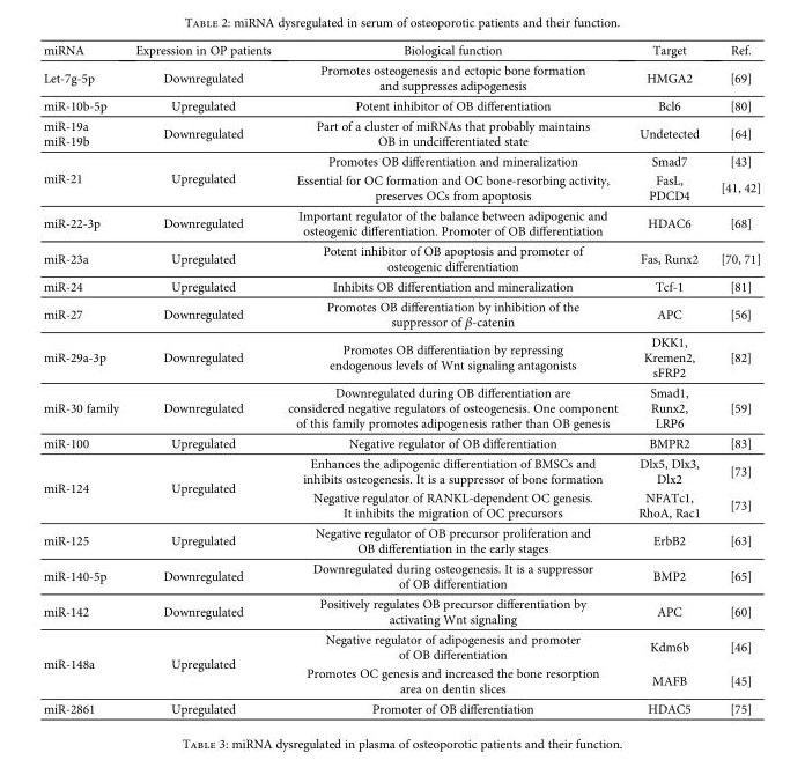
<table><thead><tr><td>miRNA</td><td>Expression in OP patients</td><td>Biological function</td><td>Target</td><td>Ref.</td></tr></thead><tbody><tr><td>Let-7g-5p</td><td>Downregulated</td><td>Promotes osteogenesis and ectopic bone formation and suppresses adipogenesis</td><td>HMGA2</td><td>[69]</td></tr><tr><td>miR-10b-5p</td><td>Upregulated</td><td>Potent inhibitor of OB differentiation</td><td>Bcl6</td><td>[80]</td></tr><tr><td>miR-19a miR-19b</td><td>Downregulated</td><td>Part of a cluster of miRNAs that probably maintains OB in undcifferentiated state</td><td>Undetected</td><td>[64]</td></tr><tr><td rowspan="2">miR-21</td><td rowspan="2">Upregulated</td><td>Promotes OB differentiation and mineralization</td><td>Smad7</td><td>[43]</td></tr><tr><td>Essential for OC formation and OC bone-resorbing activity, preserves OCs from apoptosis</td><td>FasL, PDCD4</td><td>[41, 42]</td></tr><tr><td>miR-22-3p</td><td>Downregulated</td><td>Important regulator of the balance between adipogenic and osteogenic differentiation. Promoter of OB differentiation</td><td>HDAC6</td><td>[68]</td></tr><tr><td>miR-23a</td><td>Upregulated</td><td>Potent inhibitor of OB apoptosis and promoter of osteogenic differentiation</td><td>Fas, Runx2</td><td>[70, 71]</td></tr><tr><td>miR-24</td><td>Upregulated</td><td>Inhibits OB differentiation and mineralization</td><td>Tcf-1</td><td>[81]</td></tr><tr><td>miR-27</td><td>Downregulated</td><td>Promotes OB differentiation by inhibition of the suppressor of β-catenin</td><td>APC</td><td>[56]</td></tr><tr><td>miR-29a-3p</td><td>Downregulated</td><td>Promotes OB differentiation by repressing endogenous levels of Wnt signaling antagonists</td><td>DKK1, Kremen2, sFRP2</td><td>[82]</td></tr><tr><td>miR-30 family</td><td>Downregulated</td><td>Downregulated during OB differentiation are considered negative regulators of osteogenesis. One component of this family promotes adipogenesis rather than OB genesis</td><td>Smad1, Runx2, LRP6</td><td>[59]</td></tr><tr><td>miR-100</td><td>Upregulated</td><td>Negative regulator of OB differentiation</td><td>BMPR2</td><td>[83]</td></tr><tr><td rowspan="2">miR-124</td><td rowspan="2">Upregulated</td><td>Enhances the adipogenic differentiation of BMSCs and inhibits osteogenesis. It is a suppressor of bone formation</td><td>Dlx5, Dlx3, Dlx2</td><td>[73]</td></tr><tr><td>Negative regulator of RANKL-dependent OC genesis. It inhibits the migration of OC precursors</td><td>NFATc1, RhoA, Rac1</td><td>[73]</td></tr><tr><td>miR-125</td><td>Upregulated</td><td>Negative regulator of OB precursor proliferation and OB differentiation in the early stages</td><td>ErbB2</td><td>[63]</td></tr><tr><td>miR-140-5p</td><td>Downregulated</td><td>Downregulated during osteogenesis. It is a suppressor of OB differentiation</td><td>BMP2</td><td>[65]</td></tr><tr><td>miR-142</td><td>Downregulated</td><td>Positively regulates OB precursor differentiation by activating Wnt signaling</td><td>APC</td><td>[60]</td></tr><tr><td rowspan="2">miR-148a</td><td rowspan="2">Upregulated</td><td>Negative regulator of adipogenesis and promoter of OB differentiation</td><td>Kdm6b</td><td>[46]</td></tr><tr><td>Promotes OC genesis and increased the bone resorption area on dentin slices</td><td>MAFB</td><td>[45]</td></tr><tr><td>miR-2861</td><td>Upregulated</td><td>Promoter of OB differentiation</td><td>HDAC5</td><td>[75]</td></tr></tbody></table>